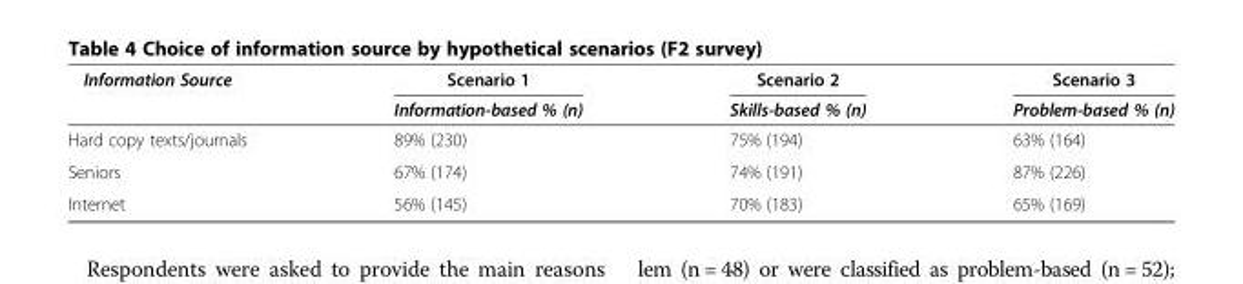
<table><thead><tr><td rowspan="2">Information Source</td><td rowspan="2">Scenario 1 Information-based % (n)</td><td rowspan="2">Scenario 2 Skills-based % (n)</td><td rowspan="2">Scenario 3 Problem-based % (n)</td></tr><tr></tr></thead><tbody><tr><td>Hard copy texts/journals</td><td>89% (230)</td><td>75% (194)</td><td>63% (164)</td></tr><tr><td>Seniors</td><td>67% (174)</td><td>74% (191)</td><td>87% (226)</td></tr><tr><td>Internet</td><td>56% (145)</td><td>70% (183)</td><td>65% (169)</td></tr></tbody></table>